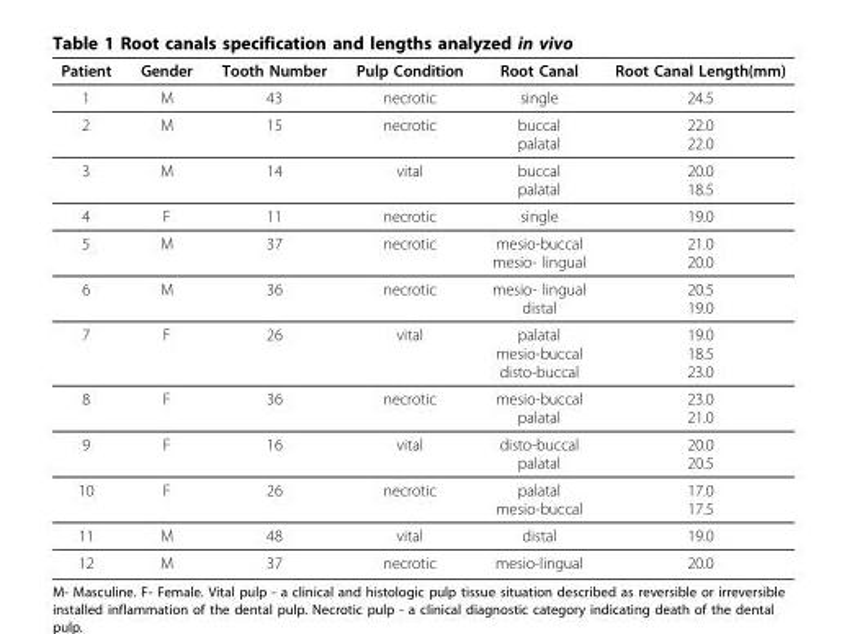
<table><thead><tr><td>Patient</td><td>Gender</td><td>Tooth Number</td><td>Pulp Condition</td><td>Root Canal</td><td>Root Canal Length(mm)</td></tr></thead><tbody><tr><td>1</td><td>M</td><td>43</td><td>necrotic</td><td>single</td><td>24.5</td></tr><tr><td>2</td><td>M</td><td>15</td><td>necrotic</td><td>buccal palatal</td><td>22.0 22.0</td></tr><tr><td>3</td><td>M</td><td>14</td><td>vital</td><td>buccal palatal</td><td>20.0 18.5</td></tr><tr><td>4</td><td>F</td><td>11</td><td>necrotic</td><td>single</td><td>19.0</td></tr><tr><td>5</td><td>M</td><td>37</td><td>necrotic</td><td>mesio-buccal mesio- lingual</td><td>21.0 20.0</td></tr><tr><td>6</td><td>M</td><td>36</td><td>necrotic</td><td>mesio- lingual distal</td><td>20.5 19.0</td></tr><tr><td>7</td><td>F</td><td>26</td><td>vital</td><td>palatal mesio-buccal disto-buccal</td><td>19.0 18.5 23.0</td></tr><tr><td>8</td><td>F</td><td>36</td><td>necrotic</td><td>mesio-buccal palatal</td><td>23.0 21.0</td></tr><tr><td>9</td><td>F</td><td>16</td><td>vital</td><td>disto-buccal palatal</td><td>20.0 20.5</td></tr><tr><td>10</td><td>F</td><td>26</td><td>necrotic</td><td>palatal mesio-buccal</td><td>17.0 17.5</td></tr><tr><td>11</td><td>M</td><td>48</td><td>vital</td><td>distal</td><td>19.0</td></tr><tr><td>12</td><td>M</td><td>37</td><td>necrotic</td><td>mesio-lingual</td><td>20.0</td></tr></tbody></table>